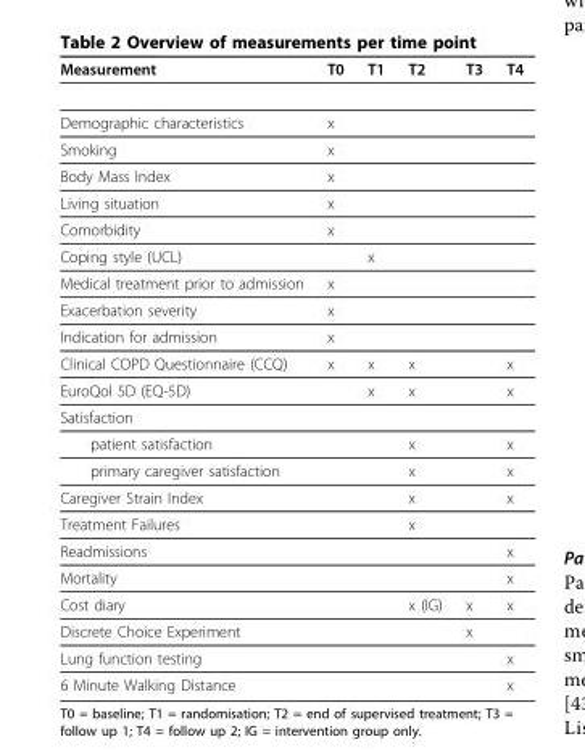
<table><thead><tr><td>Measurement</td><td>T0</td><td>T1</td><td>T2</td><td>T3</td><td>T4</td></tr></thead><tbody><tr><td>Demographic characteristics</td><td>x</td><td></td><td></td><td></td><td></td></tr><tr><td>Smoking</td><td>x</td><td></td><td></td><td></td><td></td></tr><tr><td>Body Mass Index</td><td>x</td><td></td><td></td><td></td><td></td></tr><tr><td>Living situation</td><td>x</td><td></td><td></td><td></td><td></td></tr><tr><td>Comorbidity</td><td>x</td><td></td><td></td><td></td><td></td></tr><tr><td>Coping style (UCL)</td><td></td><td>x</td><td></td><td></td><td></td></tr><tr><td>Medical treatment prior to admission</td><td>x</td><td></td><td></td><td></td><td></td></tr><tr><td>Exacerbation severity</td><td>x</td><td></td><td></td><td></td><td></td></tr><tr><td>Indication for admission</td><td>x</td><td></td><td></td><td></td><td></td></tr><tr><td>Clinical COPD Questionnaire (CCQ)</td><td>x</td><td>x</td><td>x</td><td></td><td>x</td></tr><tr><td>EuroQol 5D (EQ-5D)</td><td></td><td>x</td><td>x</td><td></td><td>x</td></tr><tr><td colspan="6">Satisfaction</td></tr><tr><td>patient satisfaction</td><td></td><td></td><td>x</td><td></td><td>x</td></tr><tr><td>primary caregiver satisfaction</td><td></td><td></td><td>x</td><td></td><td>x</td></tr><tr><td>Caregiver Strain Index</td><td></td><td></td><td>x</td><td></td><td>x</td></tr><tr><td>Treatment Failures</td><td></td><td></td><td>x</td><td></td><td></td></tr><tr><td>Readmissions</td><td></td><td></td><td></td><td></td><td>x</td></tr><tr><td>Mortality</td><td></td><td></td><td></td><td></td><td>x</td></tr><tr><td>Cost diary</td><td></td><td></td><td>x (IG)</td><td>x</td><td>x</td></tr><tr><td>Discrete Choice Experiment</td><td></td><td></td><td></td><td>x</td><td></td></tr><tr><td>Lung function testing</td><td></td><td></td><td></td><td></td><td>x</td></tr><tr><td>6 Minute Walking Distance</td><td></td><td></td><td></td><td></td><td>x</td></tr></tbody></table>